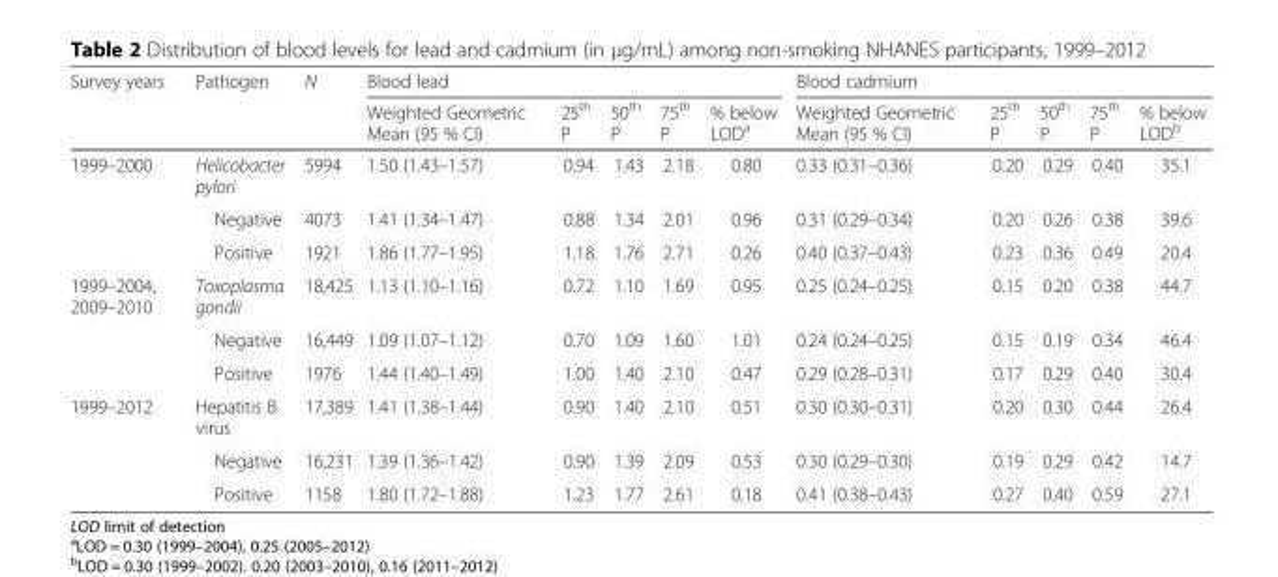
<table><thead><tr><td rowspan="2">Survey years</td><td rowspan="2">Pathogen</td><td rowspan="2">N</td><td colspan="5">Blood lead</td><td colspan="5">Blood cadmium</td></tr><tr><td>Weighted Geometric Mean (95 % CI)</td><td>25<sup>th</sup> P</td><td>50<sup>th</sup> P</td><td>75<sup>th</sup> P</td><td>% below LOD<sup>a</sup></td><td>Weighted Geometric Mean (95 % CI)</td><td>25<sup>th</sup> P</td><td>50<sup>th</sup> P</td><td>75<sup>th</sup> P</td><td>% below LOD<sup>b</sup></td></tr></thead><tbody><tr><td rowspan="3">1999–2000</td><td>Helicobacter pylori</td><td>5994</td><td>1.50 (1.43–1.57)</td><td>0.94</td><td>1.43</td><td>2.18</td><td>0.80</td><td>0.33 (0.31–0.36)</td><td>0.20</td><td>0.29</td><td>0.40</td><td>35.1</td></tr><tr><td>Negative</td><td>4073</td><td>1.41 (1.34–1.47)</td><td>0.88</td><td>1.34</td><td>2.01</td><td>0.96</td><td>0.31 (0.29–0.34)</td><td>0.20</td><td>0.26</td><td>0.38</td><td>39.6</td></tr><tr><td>Positive</td><td>1921</td><td>1.86 (1.77–1.95)</td><td>1.18</td><td>1.76</td><td>2.71</td><td>0.26</td><td>0.40 (0.37–0.43)</td><td>0.23</td><td>0.36</td><td>0.49</td><td>20.4</td></tr><tr><td rowspan="3">1999–2004, 2009–2010</td><td>Toxoplasma gondii</td><td>18,425</td><td>1.13 (1.10–1.16)</td><td>0.72</td><td>1.10</td><td>1.69</td><td>0.95</td><td>0.25 (0.24–0.25)</td><td>0.15</td><td>0.20</td><td>0.38</td><td>44.7</td></tr><tr><td>Negative</td><td>16,449</td><td>1.09 (1.07–1.12)</td><td>0.70</td><td>1.09</td><td>1.60</td><td>1.01</td><td>0.24 (0.24–0.25)</td><td>0.15</td><td>0.19</td><td>0.34</td><td>46.4</td></tr><tr><td>Positive</td><td>1976</td><td>1.44 (1.40–1.49)</td><td>1.00</td><td>1.40</td><td>2.10</td><td>0.47</td><td>0.29 (0.28–0.31)</td><td>0.17</td><td>0.29</td><td>0.40</td><td>30.4</td></tr><tr><td rowspan="3">1999–2012</td><td>Hepatitis B virus</td><td>17,389</td><td>1.41 (1.38–1.44)</td><td>0.90</td><td>1.40</td><td>2.10</td><td>0.51</td><td>0.30 (0.30–0.31)</td><td>0.20</td><td>0.30</td><td>0.44</td><td>26.4</td></tr><tr><td>Negative</td><td>16,231</td><td>1.39 (1.36–1.42)</td><td>0.90</td><td>1.39</td><td>2.09</td><td>0.53</td><td>0.30 (0.29–0.30)</td><td>0.19</td><td>0.29</td><td>0.42</td><td>14.7</td></tr><tr><td>Positive</td><td>1158</td><td>1.80 (1.72–1.88)</td><td>1.23</td><td>1.77</td><td>2.61</td><td>0.18</td><td>0.41 (0.38–0.43)</td><td>0.27</td><td>0.40</td><td>0.59</td><td>27.1</td></tr></tbody></table>